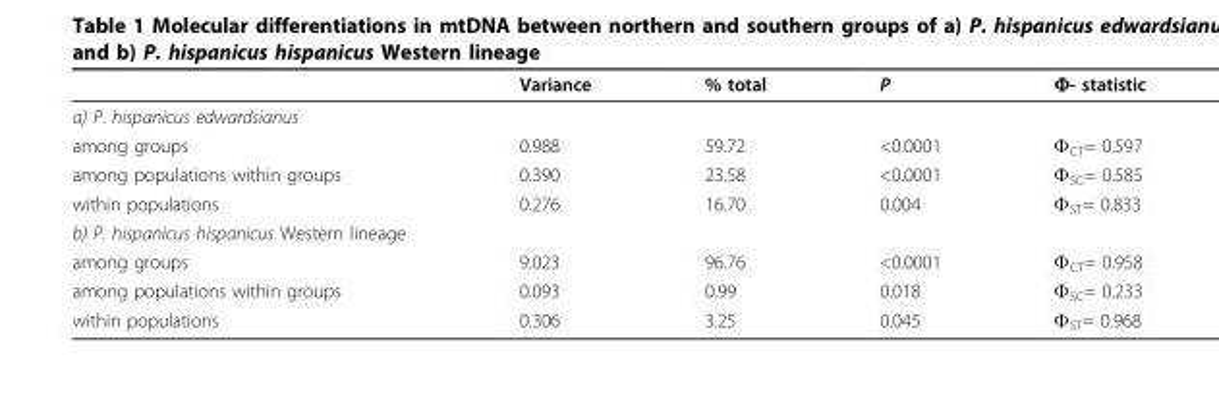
<table><thead><tr><td></td><td>Variance</td><td>% total</td><td>P</td><td>Φ- statistic</td></tr></thead><tbody><tr><td colspan="5">a) P. hispanicus edwardsianus</td></tr><tr><td>among groups</td><td>0.988</td><td>59.72</td><td>&lt;0.0001</td><td>Φ<sub>CT</sub>= 0.597</td></tr><tr><td>among populations within groups</td><td>0.390</td><td>23.58</td><td>&lt;0.0001</td><td>Φ<sub>SC</sub>= 0.585</td></tr><tr><td>within populations</td><td>0.276</td><td>16.70</td><td>0.004</td><td>Φ<sub>ST</sub>= 0.833</td></tr><tr><td colspan="5">b) P. hispanicus hispanicus Western lineage</td></tr><tr><td>among groups</td><td>9.023</td><td>96.76</td><td>&lt;0.0001</td><td>Φ<sub>CT</sub>= 0.958</td></tr><tr><td>among populations within groups</td><td>0.093</td><td>0.99</td><td>0.018</td><td>Φ<sub>SC</sub>= 0.233</td></tr><tr><td>within populations</td><td>0.306</td><td>3.25</td><td>0.045</td><td>Φ<sub>ST</sub>= 0.968</td></tr></tbody></table>